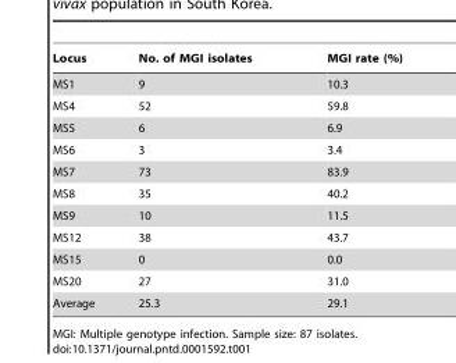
<table><thead><tr><td>Locus</td><td>No. of MGI isolates</td><td>MGI rate (%)</td></tr></thead><tbody><tr><td>MS1</td><td>9</td><td>10.3</td></tr><tr><td>MS4</td><td>52</td><td>59.8</td></tr><tr><td>MS5</td><td>6</td><td>6.9</td></tr><tr><td>MS6</td><td>3</td><td>3.4</td></tr><tr><td>MS7</td><td>73</td><td>83.9</td></tr><tr><td>MS8</td><td>35</td><td>40.2</td></tr><tr><td>MS9</td><td>10</td><td>11.5</td></tr><tr><td>MS12</td><td>38</td><td>43.7</td></tr><tr><td>MS15</td><td>0</td><td>0.0</td></tr><tr><td>MS20</td><td>27</td><td>31.0</td></tr><tr><td>Average</td><td>25.3</td><td>29.1</td></tr></tbody></table>